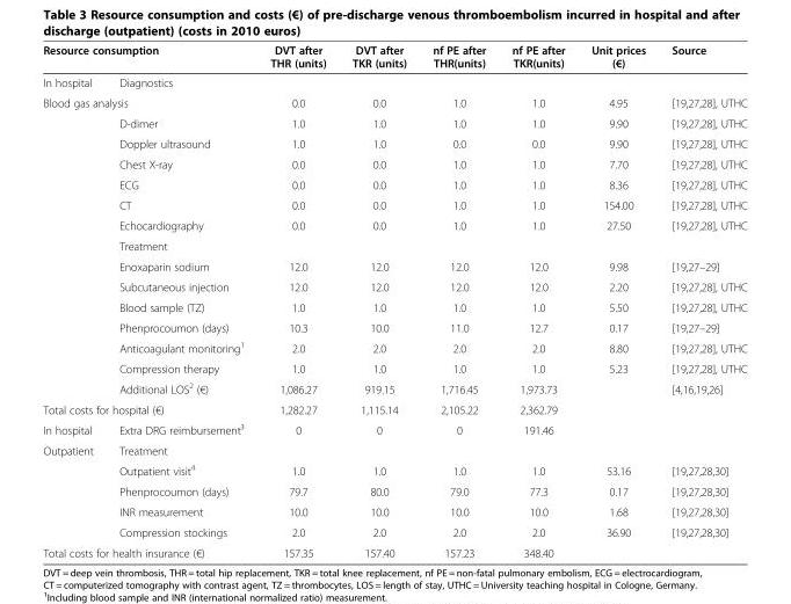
<table><thead><tr><td colspan="2">Resource consumption</td><td>DVT after THR (units)</td><td>DVT after TKR (units)</td><td>nf PE after THR(units)</td><td>nf PE after TKR(units)</td><td>Unit prices (€)</td><td rowspan="2">Source</td></tr><tr><td>In hospital</td><td>Diagnostics</td><td colspan="5"></td></tr></thead><tbody><tr><td colspan="2">Blood gas analysis</td><td>0.0</td><td>0.0</td><td>1.0</td><td>1.0</td><td>4.95</td><td>[19,27,28], UTHC</td></tr><tr><td></td><td>D-dimer</td><td>1.0</td><td>1.0</td><td>1.0</td><td>1.0</td><td>9.90</td><td>[19,27,28], UTHC</td></tr><tr><td></td><td>Doppler ultrasound</td><td>1.0</td><td>1.0</td><td>0.0</td><td>0.0</td><td>9.90</td><td>[19,27,28], UTHC</td></tr><tr><td></td><td>Chest X-ray</td><td>0.0</td><td>0.0</td><td>1.0</td><td>1.0</td><td>7.70</td><td>[19,27,28], UTHC</td></tr><tr><td></td><td>ECG</td><td>0.0</td><td>0.0</td><td>1.0</td><td>1.0</td><td>8.36</td><td>[19,27,28], UTHC</td></tr><tr><td></td><td>CT</td><td>0.0</td><td>0.0</td><td>1.0</td><td>1.0</td><td>154.00</td><td>[19,27,28], UTHC</td></tr><tr><td></td><td>Echocardiography</td><td>0.0</td><td>0.0</td><td>1.0</td><td>1.0</td><td>27.50</td><td>[19,27,28], UTHC</td></tr><tr><td></td><td>Treatment</td><td colspan="5"></td><td></td></tr><tr><td></td><td>Enoxaparin sodium</td><td>12.0</td><td>12.0</td><td>12.0</td><td>12.0</td><td>9.98</td><td>[19,27–29]</td></tr><tr><td></td><td>Subcutaneous injection</td><td>12.0</td><td>12.0</td><td>12.0</td><td>12.0</td><td>2.20</td><td>[19,27,28], UTHC</td></tr><tr><td></td><td>Blood sample (TZ)</td><td>1.0</td><td>1.0</td><td>1.0</td><td>1.0</td><td>5.50</td><td>[19,27,28], UTHC</td></tr><tr><td></td><td>Phenprocoumon (days)</td><td>10.3</td><td>10.0</td><td>11.0</td><td>12.7</td><td>0.17</td><td>[19,27–29]</td></tr><tr><td></td><td>Anticoagulant monitoring<sup>1</sup></td><td>2.0</td><td>2.0</td><td>2.0</td><td>2.0</td><td>8.80</td><td>[19,27,28], UTHC</td></tr><tr><td></td><td>Compression therapy</td><td>1.0</td><td>1.0</td><td>1.0</td><td>1.0</td><td>5.23</td><td>[19,27,28], UTHC</td></tr><tr><td></td><td>Additional LOS<sup>2</sup> (€)</td><td>1,086.27</td><td>919.15</td><td>1,716.45</td><td>1,973.73</td><td></td><td>[4,16,19,26]</td></tr><tr><td colspan="2">Total costs for hospital (€)</td><td>1,282.27</td><td>1,115.14</td><td>2,105.22</td><td>2,362.79</td><td colspan="2"></td></tr><tr><td>In hospital</td><td>Extra DRG reimbursement³</td><td>0</td><td>0</td><td>0</td><td>191.46</td><td colspan="2"></td></tr><tr><td rowspan="5">Outpatient</td><td>Treatment</td><td colspan="6"></td></tr><tr><td>Outpatient visit<sup>4</sup></td><td>1.0</td><td>1.0</td><td>1.0</td><td>1.0</td><td>53.16</td><td>[19,27,28,30]</td></tr><tr><td>Phenprocoumon (days)</td><td>79.7</td><td>80.0</td><td>79.0</td><td>77.3</td><td>0.17</td><td>[19,27,28,30]</td></tr><tr><td>INR measurement</td><td>10.0</td><td>10.0</td><td>10.0</td><td>10.0</td><td>1.68</td><td>[19,27,28,30]</td></tr><tr><td>Compression stockings</td><td>2.0</td><td>2.0</td><td>2.0</td><td>2.0</td><td>36.90</td><td>[19,27,28,30]</td></tr><tr><td colspan="2">Total costs for health insurance (€)</td><td>157.35</td><td>157.40</td><td>157.23</td><td>348.40</td><td colspan="2"></td></tr></tbody></table>